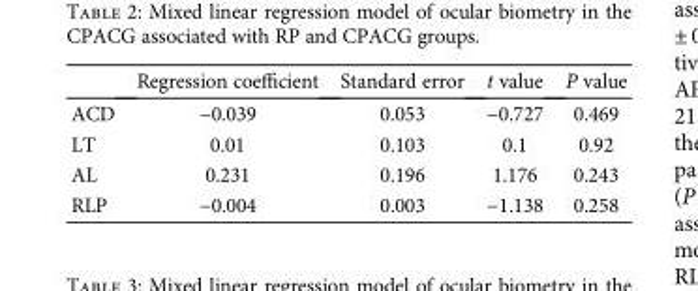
<table><thead><tr><td></td><td>Regression coefficient</td><td>Standard error</td><td>t value</td><td>P value</td></tr></thead><tbody><tr><td>ACD</td><td>−0.039</td><td>0.053</td><td>−0.727</td><td>0.469</td></tr><tr><td>LT</td><td>0.01</td><td>0.103</td><td>0.1</td><td>0.92</td></tr><tr><td>AL</td><td>0.231</td><td>0.196</td><td>1.176</td><td>0.243</td></tr><tr><td>RLP</td><td>−0.004</td><td>0.003</td><td>−1.138</td><td>0.258</td></tr></tbody></table>